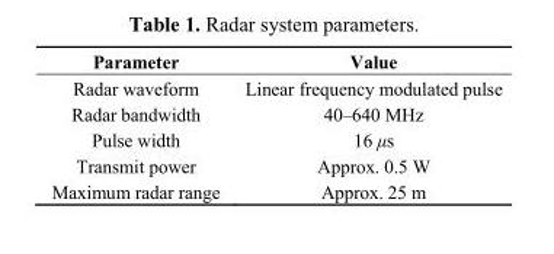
<table><thead><tr><td>Parameter</td><td>Value</td></tr></thead><tbody><tr><td>Radar waveform</td><td>Linear frequency modulated pulse</td></tr><tr><td>Radar bandwidth</td><td>40–640 MHz</td></tr><tr><td>Pulse width</td><td>16 μs</td></tr><tr><td>Transmit power</td><td>Approx. 0.5 W</td></tr><tr><td>Maximum radar range</td><td>Approx. 25 m</td></tr></tbody></table>